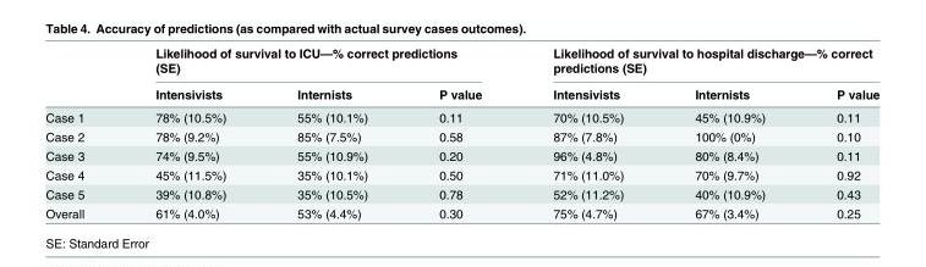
<table><thead><tr><td rowspan="2"></td><td colspan="3">Likelihood of survival to ICU—% correct predictions (SE)</td><td colspan="3">Likelihood of survival to hospital discharge—% correct predictions (SE)</td></tr><tr><td>Intensivists</td><td>Internists</td><td>P value</td><td>Intensivists</td><td>Internists</td><td>P value</td></tr></thead><tbody><tr><td>Case 1</td><td>78% (10.5%)</td><td>55% (10.1%)</td><td>0.11</td><td>70% (10.5%)</td><td>45% (10.9%)</td><td>0.11</td></tr><tr><td>Case 2</td><td>78% (9.2%)</td><td>85% (7.5%)</td><td>0.58</td><td>87% (7.8%)</td><td>100% (0%)</td><td>0.10</td></tr><tr><td>Case 3</td><td>74% (9.5%)</td><td>55% (10.9%)</td><td>0.20</td><td>96% (4.8%)</td><td>80% (8.4%)</td><td>0.11</td></tr><tr><td>Case 4</td><td>45% (11.5%)</td><td>35% (10.1%)</td><td>0.50</td><td>71% (11.0%)</td><td>70% (9.7%)</td><td>0.92</td></tr><tr><td>Case 5</td><td>39% (10.8%)</td><td>35% (10.5%)</td><td>0.78</td><td>52% (11.2%)</td><td>40% (10.9%)</td><td>0.43</td></tr><tr><td>Overall</td><td>61% (4.0%)</td><td>53% (4.4%)</td><td>0.30</td><td>75% (4.7%)</td><td>67% (3.4%)</td><td>0.25</td></tr></tbody></table>